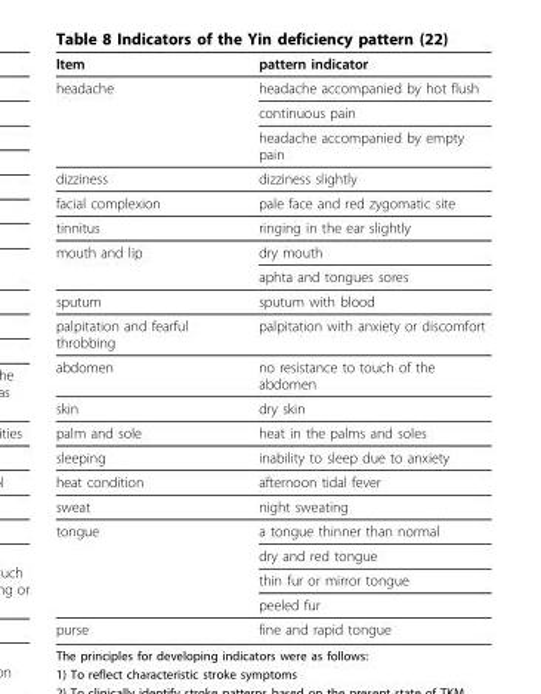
<table><thead><tr><td>Item</td><td>pattern indicator</td></tr></thead><tbody><tr><td rowspan="3">headache</td><td>headache accompanied by hot flush</td></tr><tr><td>continuous pain</td></tr><tr><td>headache accompanied by empty pain</td></tr><tr><td>dizziness</td><td>dizziness slightly</td></tr><tr><td>facial complexion</td><td>pale face and red zygomatic site</td></tr><tr><td>tinnitus</td><td>ringing in the ear slightly</td></tr><tr><td rowspan="2">mouth and lip</td><td>dry mouth</td></tr><tr><td>aphta and tongues sores</td></tr><tr><td>sputum</td><td>sputum with blood</td></tr><tr><td>palpitation and fearful throbbing</td><td>palpitation with anxiety or discomfort</td></tr><tr><td>abdomen</td><td>no resistance to touch of the abdomen</td></tr><tr><td>skin</td><td>dry skin</td></tr><tr><td>palm and sole</td><td>heat in the palms and soles</td></tr><tr><td>sleeping</td><td>inability to sleep due to anxiety</td></tr><tr><td>heat condition</td><td>afternoon tidal fever</td></tr><tr><td>sweat</td><td>night sweating</td></tr><tr><td rowspan="4">tongue</td><td>a tongue thinner than normal</td></tr><tr><td>dry and red tongue</td></tr><tr><td>thin fur or mirror tongue</td></tr><tr><td>peeled fur</td></tr><tr><td>purse</td><td>fine and rapid tongue</td></tr></tbody></table>